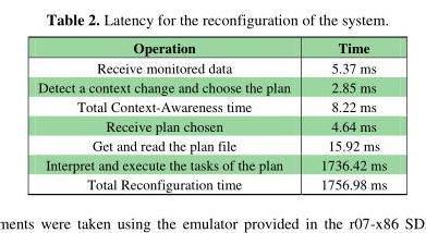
<table><thead><tr><td>Operation</td><td>Time</td></tr></thead><tbody><tr><td>Receive monitored data</td><td>5.37 ms</td></tr><tr><td>Detect a context change and choose the plan</td><td>2.85 ms</td></tr><tr><td>Total Context-Awareness time</td><td>8.22 ms</td></tr><tr><td>Receive plan chosen</td><td>4.64 ms</td></tr><tr><td>Get and read the plan file</td><td>15.92 ms</td></tr><tr><td>Interpret and execute the tasks of the plan</td><td>1736.42 ms</td></tr><tr><td>Total Reconfiguration time</td><td>1756.98 ms</td></tr></tbody></table>